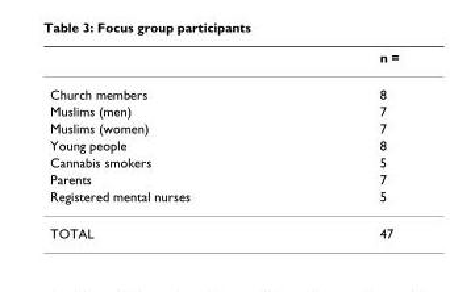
<table><thead><tr><td></td><td>n =</td></tr></thead><tbody><tr><td>Church members</td><td>8</td></tr><tr><td>Muslims (men)</td><td>7</td></tr><tr><td>Muslims (women)</td><td>7</td></tr><tr><td>Young people</td><td>8</td></tr><tr><td>Cannabis smokers</td><td>5</td></tr><tr><td>Parents</td><td>7</td></tr><tr><td>Registered mental nurses</td><td>5</td></tr><tr><td>TOTAL</td><td>47</td></tr></tbody></table>